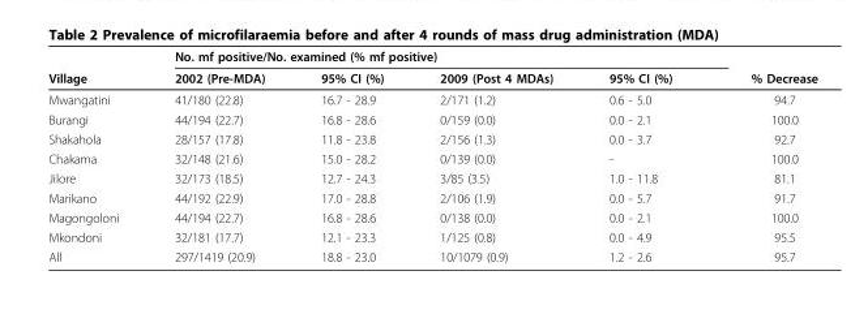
<table><thead><tr><td rowspan="2">Village</td><td colspan="3">No. mf positive/No. examined (% mf positive)</td><td rowspan="2">95% CI (%)</td><td rowspan="2">% Decrease</td></tr><tr><td>2002 (Pre-MDA)</td><td>95% CI (%)</td><td>2009 (Post 4 MDAs)</td></tr></thead><tbody><tr><td>Mwangatini</td><td>41/180 (22.8)</td><td>16.7 - 28.9</td><td>2/171 (1.2)</td><td>0.6 - 5.0</td><td>94.7</td></tr><tr><td>Burangi</td><td>44/194 (22.7)</td><td>16.8 - 28.6</td><td>0/159 (0.0)</td><td>0.0 - 2.1</td><td>100.0</td></tr><tr><td>Shakahola</td><td>28/157 (17.8)</td><td>11.8 - 23.8</td><td>2/156 (1.3)</td><td>0.0 - 3.7</td><td>92.7</td></tr><tr><td>Chakama</td><td>32/148 (21.6)</td><td>15.0 - 28.2</td><td>0/139 (0.0)</td><td>-</td><td>100.0</td></tr><tr><td>Jilore</td><td>32/173 (18.5)</td><td>12.7 - 24.3</td><td>3/85 (3.5)</td><td>1.0 - 11.8</td><td>81.1</td></tr><tr><td>Marikano</td><td>44/192 (22.9)</td><td>17.0 - 28.8</td><td>2/106 (1.9)</td><td>0.0 - 5.7</td><td>91.7</td></tr><tr><td>Magongoloni</td><td>44/194 (22.7)</td><td>16.8 - 28.6</td><td>0/138 (0.0)</td><td>0.0 - 2.1</td><td>100.0</td></tr><tr><td>Mkondoni</td><td>32/181 (17.7)</td><td>12.1 - 23.3</td><td>1/125 (0.8)</td><td>0.0 - 4.9</td><td>95.5</td></tr><tr><td>All</td><td>297/1419 (20.9)</td><td>18.8 - 23.0</td><td>10/1079 (0.9)</td><td>1.2 - 2.6</td><td>95.7</td></tr></tbody></table>